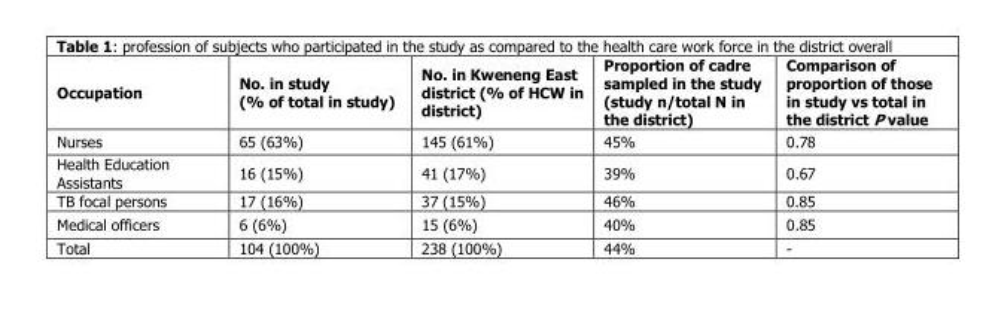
<table><thead><tr><td>Occupation</td><td>No. in study (% of total in study)</td><td>No. in Kweneng East district (% of HCW in district)</td><td>Proportion of cadre sampled in the study (study n/total N in the district)</td><td>Comparison of proportion of those in study vs total in the district P value</td></tr></thead><tbody><tr><td>Nurses</td><td>65 (63%)</td><td>145 (61%)</td><td>45%</td><td>0.78</td></tr><tr><td>Health Education Assistants</td><td>16 (15%)</td><td>41 (17%)</td><td>39%</td><td>0.67</td></tr><tr><td>TB focal persons</td><td>17 (16%)</td><td>37 (15%)</td><td>46%</td><td>0.85</td></tr><tr><td>Medical officers</td><td>6 (6%)</td><td>15 (6%)</td><td>40%</td><td>0.85</td></tr><tr><td>Total</td><td>104 (100%)</td><td>238 (100%)</td><td>44%</td><td>-</td></tr></tbody></table>